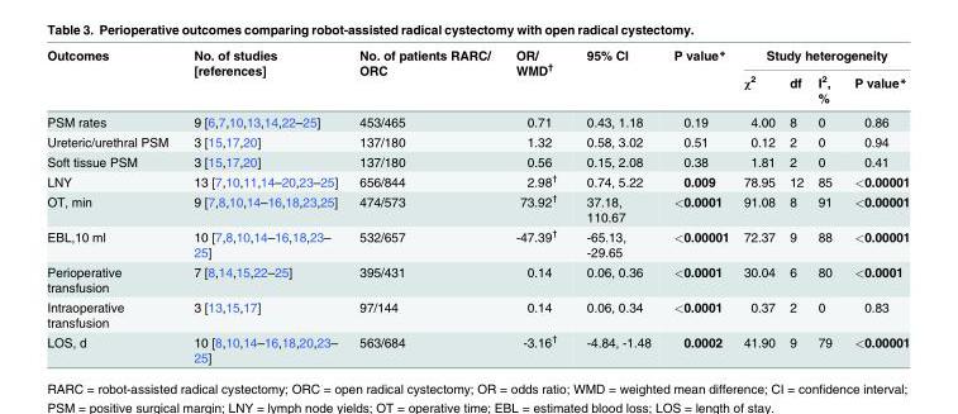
<table><thead><tr><td rowspan="2">Outcomes</td><td rowspan="2">No. of studies [references]</td><td rowspan="2">No. of patients RARC/ ORC</td><td rowspan="2">OR/ WMD<sup>†</sup></td><td rowspan="2">95% CI</td><td rowspan="2">P value*</td><td colspan="4">Study heterogeneity</td></tr><tr><td>χ<sup>2</sup></td><td>df</td><td>I<sup>2</sup>, %</td><td>P value*</td></tr></thead><tbody><tr><td>PSM rates</td><td>9 [6,7,10,13,14,22–25]</td><td>453/465</td><td>0.71</td><td>0.43, 1.18</td><td>0.19</td><td>4.00</td><td>8</td><td>0</td><td>0.86</td></tr><tr><td>Ureteric/urethral PSM</td><td>3 [15,17,20]</td><td>137/180</td><td>1.32</td><td>0.58, 3.02</td><td>0.51</td><td>0.12</td><td>2</td><td>0</td><td>0.94</td></tr><tr><td>Soft tissue PSM</td><td>3 [15,17,20]</td><td>137/180</td><td>0.56</td><td>0.15, 2.08</td><td>0.38</td><td>1.81</td><td>2</td><td>0</td><td>0.41</td></tr><tr><td>LNY</td><td>13 [7,10,11,14–20,23–25]</td><td>656/844</td><td>2.98<sup>†</sup></td><td>0.74, 5.22</td><td>0.009</td><td>78.95</td><td>12</td><td>85</td><td>&lt;0.00001</td></tr><tr><td>OT, min</td><td>9 [7,8,10,14–16,18,23,25]</td><td>474/573</td><td>73.92<sup>†</sup></td><td>37.18, 110.67</td><td>&lt;0.0001</td><td>91.08</td><td>8</td><td>91</td><td>&lt;0.00001</td></tr><tr><td>EBL,10 ml</td><td>10 [7,8,10,14–16,18,23– 25]</td><td>532/657</td><td>-47.39<sup>†</sup></td><td>-65.13, -29.65</td><td>&lt;0.00001</td><td>72.37</td><td>9</td><td>88</td><td>&lt;0.00001</td></tr><tr><td>Perioperative transfusion</td><td>7 [8,14,15,22–25]</td><td>395/431</td><td>0.14</td><td>0.06, 0.36</td><td>&lt;0.0001</td><td>30.04</td><td>6</td><td>80</td><td>&lt;0.0001</td></tr><tr><td>Intraoperative transfusion</td><td>3 [13,15,17]</td><td>97/144</td><td>0.14</td><td>0.06, 0.34</td><td>&lt;0.0001</td><td>0.37</td><td>2</td><td>0</td><td>0.83</td></tr><tr><td>LOS, d</td><td>10 [8,10,14–16,18,20,23– 25]</td><td>563/684</td><td>-3.16<sup>†</sup></td><td>-4.84, -1.48</td><td>0.0002</td><td>41.90</td><td>9</td><td>79</td><td>&lt;0.00001</td></tr></tbody></table>